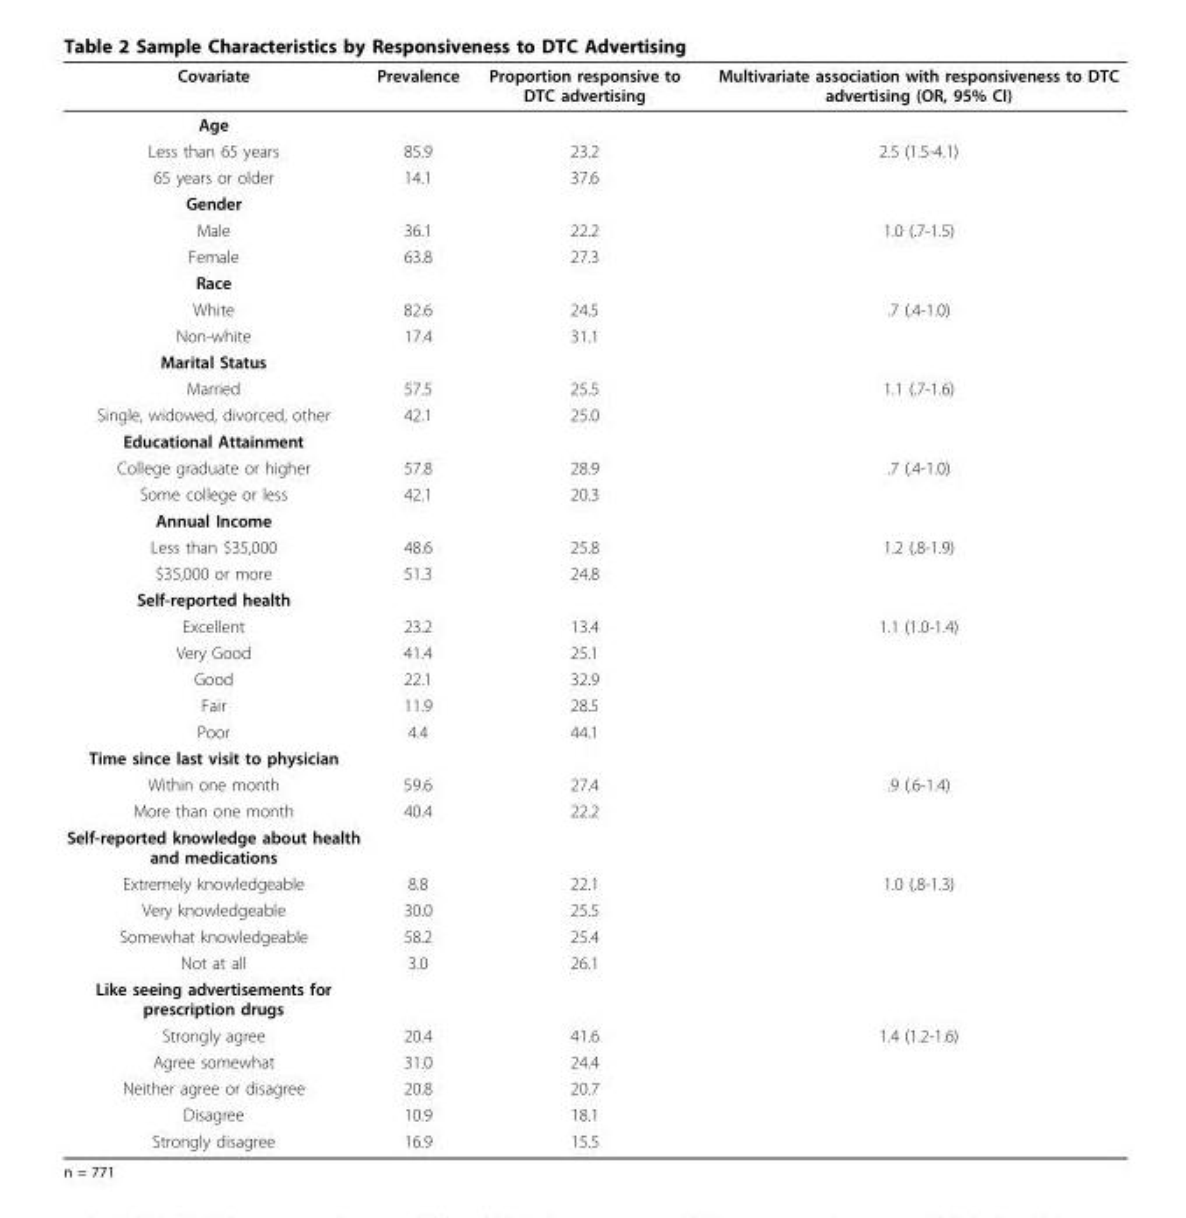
<table><thead><tr><td>Covariate</td><td>Prevalence</td><td>Proportion responsive to DTC advertising</td><td>Multivariate association with responsiveness to DTC advertising (OR, 95% CI)</td></tr></thead><tbody><tr><td colspan="4">Age</td></tr><tr><td>Less than 65 years</td><td>85.9</td><td>23.2</td><td>2.5 (1.5-4.1)</td></tr><tr><td>65 years or older</td><td>14.1</td><td>37.6</td><td></td></tr><tr><td colspan="4">Gender</td></tr><tr><td>Male</td><td>36.1</td><td>22.2</td><td>1.0 (.7-1.5)</td></tr><tr><td>Female</td><td>63.8</td><td>27.3</td><td></td></tr><tr><td colspan="4">Race</td></tr><tr><td>White</td><td>82.6</td><td>24.5</td><td>.7 (.4-1.0)</td></tr><tr><td>Non-white</td><td>17.4</td><td>31.1</td><td></td></tr><tr><td colspan="4">Marital Status</td></tr><tr><td>Married</td><td>57.5</td><td>25.5</td><td>1.1 (.7-1.6)</td></tr><tr><td>Single, widowed, divorced, other</td><td>42.1</td><td>25.0</td><td></td></tr><tr><td colspan="4">Educational Attainment</td></tr><tr><td>College graduate or higher</td><td>57.8</td><td>28.9</td><td>.7 (.4-1.0)</td></tr><tr><td>Some college or less</td><td>42.1</td><td>20.3</td><td></td></tr><tr><td colspan="4">Annual Income</td></tr><tr><td>Less than $35,000</td><td>48.6</td><td>25.8</td><td>1.2 (.8-1.9)</td></tr><tr><td>$35,000 or more</td><td>51.3</td><td>24.8</td><td></td></tr><tr><td colspan="4">Self-reported health</td></tr><tr><td>Excellent</td><td>23.2</td><td>13.4</td><td>1.1 (1.0-1.4)</td></tr><tr><td>Very Good</td><td>41.4</td><td>25.1</td><td></td></tr><tr><td>Good</td><td>22.1</td><td>32.9</td><td></td></tr><tr><td>Fair</td><td>11.9</td><td>28.5</td><td></td></tr><tr><td>Poor</td><td>4.4</td><td>44.1</td><td></td></tr><tr><td colspan="4">Time since last visit to physician</td></tr><tr><td>Within one month</td><td>59.6</td><td>27.4</td><td>.9 (.6-1.4)</td></tr><tr><td>More than one month</td><td>40.4</td><td>22.2</td><td></td></tr><tr><td colspan="4">Self-reported knowledge about health and medications</td></tr><tr><td>Extremely knowledgeable</td><td>8.8</td><td>22.1</td><td>1.0 (.8-1.3)</td></tr><tr><td>Very knowledgeable</td><td>30.0</td><td>25.5</td><td></td></tr><tr><td>Somewhat knowledgeable</td><td>58.2</td><td>25.4</td><td></td></tr><tr><td>Not at all</td><td>3.0</td><td>26.1</td><td></td></tr><tr><td colspan="4">Like seeing advertisements for prescription drugs</td></tr><tr><td>Strongly agree</td><td>20.4</td><td>41.6</td><td>1.4 (1.2-1.6)</td></tr><tr><td>Agree somewhat</td><td>31.0</td><td>24.4</td><td></td></tr><tr><td>Neither agree or disagree</td><td>20.8</td><td>20.7</td><td></td></tr><tr><td>Disagree</td><td>10.9</td><td>18.1</td><td></td></tr><tr><td>Strongly disagree</td><td>16.9</td><td>15.5</td><td></td></tr></tbody></table>